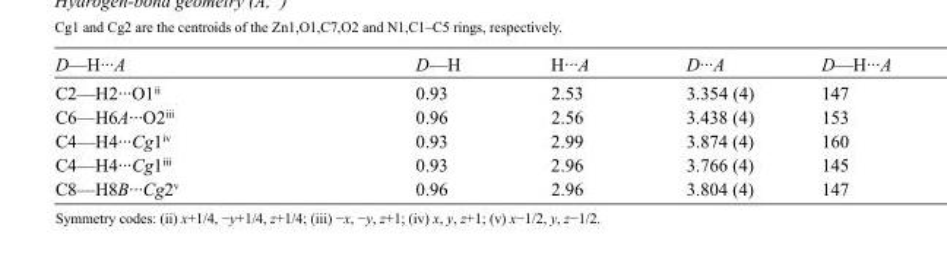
<table><tbody><tr><td>D—H···A</td><td>D—H</td><td>H···A</td><td>D···A</td><td>D—H···A</td></tr><tr><td>C2—H2···O1<sup>ii</sup></td><td>0.93</td><td>2.53</td><td>3.354 (4)</td><td>147</td></tr><tr><td>C6—H6A···O2<sup>iii</sup></td><td>0.96</td><td>2.56</td><td>3.438 (4)</td><td>153</td></tr><tr><td>C4—H4···Cg1<sup>iv</sup></td><td>0.93</td><td>2.99</td><td>3.874 (4)</td><td>160</td></tr><tr><td>C4—H4···Cg1<sup>iii</sup></td><td>0.93</td><td>2.96</td><td>3.766 (4)</td><td>145</td></tr><tr><td>C8—H8B···Cg2<sup>v</sup></td><td>0.96</td><td>2.96</td><td>3.804 (4)</td><td>147</td></tr></tbody></table>